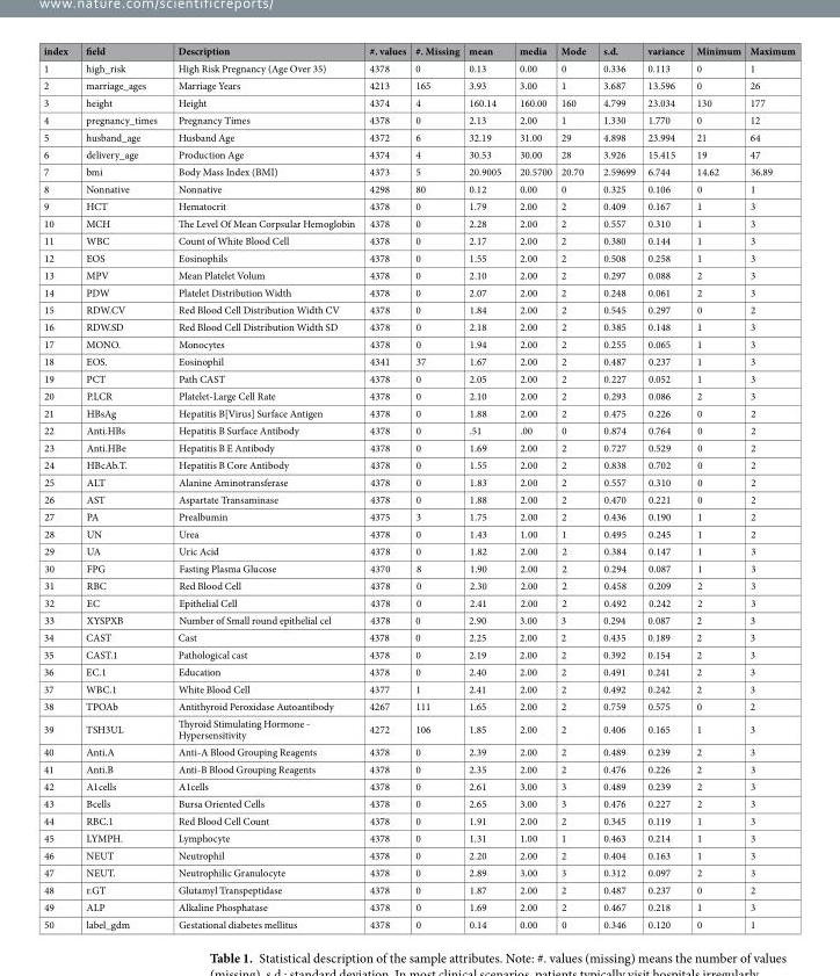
<table><thead><tr><td>index</td><td>field</td><td>Description</td><td>#. values</td><td>#. Missing</td><td>mean</td><td>media</td><td>Mode</td><td>s.d.</td><td>variance</td><td>Minimum</td><td>Maximum</td></tr></thead><tbody><tr><td>1</td><td>high_risk</td><td>High Risk Pregnancy (Age Over 35)</td><td>4378</td><td>0</td><td>0.13</td><td>0.00</td><td>0</td><td>0.336</td><td>0.113</td><td>0</td><td>1</td></tr><tr><td>2</td><td>marriage_ages</td><td>Marriage Years</td><td>4213</td><td>165</td><td>3.93</td><td>3.00</td><td>1</td><td>3.687</td><td>13.596</td><td>0</td><td>26</td></tr><tr><td>3</td><td>height</td><td>Height</td><td>4374</td><td>4</td><td>160.14</td><td>160.00</td><td>160</td><td>4.799</td><td>23.034</td><td>130</td><td>177</td></tr><tr><td>4</td><td>pregnancy_times</td><td>Pregnancy Times</td><td>4378</td><td>0</td><td>2.13</td><td>2.00</td><td>1</td><td>1.330</td><td>1.770</td><td>0</td><td>12</td></tr><tr><td>5</td><td>husband_age</td><td>Husband Age</td><td>4372</td><td>6</td><td>32.19</td><td>31.00</td><td>29</td><td>4.898</td><td>23.994</td><td>21</td><td>64</td></tr><tr><td>6</td><td>delivery_age</td><td>Production Age</td><td>4374</td><td>4</td><td>30.53</td><td>30.00</td><td>28</td><td>3.926</td><td>15.415</td><td>19</td><td>47</td></tr><tr><td>7</td><td>bmi</td><td>Body Mass Index (BMI)</td><td>4373</td><td>5</td><td>20.9005</td><td>20.5700</td><td>20.70</td><td>2.59699</td><td>6.744</td><td>14.62</td><td>36.89</td></tr><tr><td>8</td><td>Nonnative</td><td>Nonnative</td><td>4298</td><td>80</td><td>0.12</td><td>0.00</td><td>0</td><td>0.325</td><td>0.106</td><td>0</td><td>1</td></tr><tr><td>9</td><td>HCT</td><td>Hematocrit</td><td>4378</td><td>0</td><td>1.79</td><td>2.00</td><td>2</td><td>0.409</td><td>0.167</td><td>1</td><td>3</td></tr><tr><td>10</td><td>MCH</td><td>The Level Of Mean Corpsular Hemoglobin</td><td>4378</td><td>0</td><td>2.28</td><td>2.00</td><td>2</td><td>0.557</td><td>0.310</td><td>1</td><td>3</td></tr><tr><td>11</td><td>WBC</td><td>Count of White Blood Cell</td><td>4378</td><td>0</td><td>2.17</td><td>2.00</td><td>2</td><td>0.380</td><td>0.144</td><td>1</td><td>3</td></tr><tr><td>12</td><td>EOS</td><td>Eosinophils</td><td>4378</td><td>0</td><td>1.55</td><td>2.00</td><td>2</td><td>0.508</td><td>0.258</td><td>1</td><td>3</td></tr><tr><td>13</td><td>MPV</td><td>Mean Platelet Volum</td><td>4378</td><td>0</td><td>2.10</td><td>2.00</td><td>2</td><td>0.297</td><td>0.088</td><td>2</td><td>3</td></tr><tr><td>14</td><td>PDW</td><td>Platelet Distribution Width</td><td>4378</td><td>0</td><td>2.07</td><td>2.00</td><td>2</td><td>0.248</td><td>0.061</td><td>2</td><td>3</td></tr><tr><td>15</td><td>RDW.CV</td><td>Red Blood Cell Distribution Width CV</td><td>4378</td><td>0</td><td>1.84</td><td>2.00</td><td>2</td><td>0.545</td><td>0.297</td><td>0</td><td>2</td></tr><tr><td>16</td><td>RDW.SD</td><td>Red Blood Cell Distribution Width SD</td><td>4378</td><td>0</td><td>2.18</td><td>2.00</td><td>2</td><td>0.385</td><td>0.148</td><td>1</td><td>3</td></tr><tr><td>17</td><td>MONO.</td><td>Monocytes</td><td>4378</td><td>0</td><td>1.94</td><td>2.00</td><td>2</td><td>0.255</td><td>0.065</td><td>1</td><td>3</td></tr><tr><td>18</td><td>EOS.</td><td>Eosinophil</td><td>4341</td><td>37</td><td>1.67</td><td>2.00</td><td>2</td><td>0.487</td><td>0.237</td><td>1</td><td>3</td></tr><tr><td>19</td><td>PCT</td><td>Path CAST</td><td>4378</td><td>0</td><td>2.05</td><td>2.00</td><td>2</td><td>0.227</td><td>0.052</td><td>1</td><td>3</td></tr><tr><td>20</td><td>P.LCR</td><td>Platelet-Large Cell Rate</td><td>4378</td><td>0</td><td>2.10</td><td>2.00</td><td>2</td><td>0.293</td><td>0.086</td><td>2</td><td>3</td></tr><tr><td>21</td><td>HBsAg</td><td>Hepatitis B[Virus] Surface Antigen</td><td>4378</td><td>0</td><td>1.88</td><td>2.00</td><td>2</td><td>0.475</td><td>0.226</td><td>0</td><td>2</td></tr><tr><td>22</td><td>Anti.HBs</td><td>Hepatitis B Surface Antibody</td><td>4378</td><td>0</td><td>.51</td><td>.00</td><td>0</td><td>0.874</td><td>0.764</td><td>0</td><td>2</td></tr><tr><td>23</td><td>Anti.HBe</td><td>Hepatitis B E Antibody</td><td>4378</td><td>0</td><td>1.69</td><td>2.00</td><td>2</td><td>0.727</td><td>0.529</td><td>0</td><td>2</td></tr><tr><td>24</td><td>HBcAb.T.</td><td>Hepatitis B Core Antibody</td><td>4378</td><td>0</td><td>1.55</td><td>2.00</td><td>2</td><td>0.838</td><td>0.702</td><td>0</td><td>2</td></tr><tr><td>25</td><td>ALT</td><td>Alanine Aminotransferase</td><td>4378</td><td>0</td><td>1.83</td><td>2.00</td><td>2</td><td>0.557</td><td>0.310</td><td>0</td><td>2</td></tr><tr><td>26</td><td>AST</td><td>Aspartate Transaminase</td><td>4378</td><td>0</td><td>1.88</td><td>2.00</td><td>2</td><td>0.470</td><td>0.221</td><td>0</td><td>2</td></tr><tr><td>27</td><td>PA</td><td>Prealbumin</td><td>4375</td><td>3</td><td>1.75</td><td>2.00</td><td>2</td><td>0.436</td><td>0.190</td><td>1</td><td>2</td></tr><tr><td>28</td><td>UN</td><td>Urea</td><td>4378</td><td>0</td><td>1.43</td><td>1.00</td><td>1</td><td>0.495</td><td>0.245</td><td>1</td><td>2</td></tr><tr><td>29</td><td>UA</td><td>Uric Acid</td><td>4378</td><td>0</td><td>1.82</td><td>2.00</td><td>2</td><td>0.384</td><td>0.147</td><td>1</td><td>3</td></tr><tr><td>30</td><td>FPG</td><td>Fasting Plasma Glucose</td><td>4370</td><td>8</td><td>1.90</td><td>2.00</td><td>2</td><td>0.294</td><td>0.087</td><td>1</td><td>3</td></tr><tr><td>31</td><td>RBC</td><td>Red Blood Cell</td><td>4378</td><td>0</td><td>2.30</td><td>2.00</td><td>2</td><td>0.458</td><td>0.209</td><td>2</td><td>3</td></tr><tr><td>32</td><td>EC</td><td>Epithelial Cell</td><td>4378</td><td>0</td><td>2.41</td><td>2.00</td><td>2</td><td>0.492</td><td>0.242</td><td>2</td><td>3</td></tr><tr><td>33</td><td>XYSPXB</td><td>Number of Small round epithelial cel</td><td>4378</td><td>0</td><td>2.90</td><td>3.00</td><td>3</td><td>0.294</td><td>0.087</td><td>2</td><td>3</td></tr><tr><td>34</td><td>CAST</td><td>Cast</td><td>4378</td><td>0</td><td>2.25</td><td>2.00</td><td>2</td><td>0.435</td><td>0.189</td><td>2</td><td>3</td></tr><tr><td>35</td><td>CAST.1</td><td>Pathological cast</td><td>4378</td><td>0</td><td>2.19</td><td>2.00</td><td>2</td><td>0.392</td><td>0.154</td><td>2</td><td>3</td></tr><tr><td>36</td><td>EC.1</td><td>Education</td><td>4378</td><td>0</td><td>2.40</td><td>2.00</td><td>2</td><td>0.491</td><td>0.241</td><td>2</td><td>3</td></tr><tr><td>37</td><td>WBC.1</td><td>White Blood Cell</td><td>4377</td><td>1</td><td>2.41</td><td>2.00</td><td>2</td><td>0.492</td><td>0.242</td><td>2</td><td>3</td></tr><tr><td>38</td><td>TPOAb</td><td>Antithyroid Peroxidase Autoantibody</td><td>4267</td><td>111</td><td>1.65</td><td>2.00</td><td>2</td><td>0.759</td><td>0.575</td><td>0</td><td>2</td></tr><tr><td>39</td><td>TSH3UL</td><td>Thyroid Stimulating Hormone - Hypersensitivity</td><td>4272</td><td>106</td><td>1.85</td><td>2.00</td><td>2</td><td>0.406</td><td>0.165</td><td>1</td><td>3</td></tr><tr><td>40</td><td>Anti.A</td><td>Anti-A Blood Grouping Reagents</td><td>4378</td><td>0</td><td>2.39</td><td>2.00</td><td>2</td><td>0.489</td><td>0.239</td><td>2</td><td>3</td></tr><tr><td>41</td><td>Anti.B</td><td>Anti-B Blood Grouping Reagents</td><td>4378</td><td>0</td><td>2.35</td><td>2.00</td><td>2</td><td>0.476</td><td>0.226</td><td>2</td><td>3</td></tr><tr><td>42</td><td>A1cells</td><td>A1cells</td><td>4378</td><td>0</td><td>2.61</td><td>3.00</td><td>3</td><td>0.489</td><td>0.239</td><td>2</td><td>3</td></tr><tr><td>43</td><td>Bcells</td><td>Bursa Oriented Cells</td><td>4378</td><td>0</td><td>2.65</td><td>3.00</td><td>3</td><td>0.476</td><td>0.227</td><td>2</td><td>3</td></tr><tr><td>44</td><td>RBC.1</td><td>Red Blood Cell Count</td><td>4378</td><td>0</td><td>1.91</td><td>2.00</td><td>2</td><td>0.345</td><td>0.119</td><td>1</td><td>3</td></tr><tr><td>45</td><td>LYMPH.</td><td>Lymphocyte</td><td>4378</td><td>0</td><td>1.31</td><td>1.00</td><td>1</td><td>0.463</td><td>0.214</td><td>1</td><td>3</td></tr><tr><td>46</td><td>NEUT</td><td>Neutrophil</td><td>4378</td><td>0</td><td>2.20</td><td>2.00</td><td>2</td><td>0.404</td><td>0.163</td><td>1</td><td>3</td></tr><tr><td>47</td><td>NEUT.</td><td>Neutrophilic Granulocyte</td><td>4378</td><td>0</td><td>2.89</td><td>3.00</td><td>3</td><td>0.312</td><td>0.097</td><td>2</td><td>3</td></tr><tr><td>48</td><td>r.GT</td><td>Glutamyl Transpeptidase</td><td>4378</td><td>0</td><td>1.87</td><td>2.00</td><td>2</td><td>0.487</td><td>0.237</td><td>0</td><td>2</td></tr><tr><td>49</td><td>ALP</td><td>Alkaline Phosphatase</td><td>4378</td><td>0</td><td>1.69</td><td>2.00</td><td>2</td><td>0.467</td><td>0.218</td><td>1</td><td>3</td></tr><tr><td>50</td><td>label_gdm</td><td>Gestational diabetes mellitus</td><td>4378</td><td>0</td><td>0.14</td><td>0.00</td><td>0</td><td>0.346</td><td>0.120</td><td>0</td><td>1</td></tr></tbody></table>